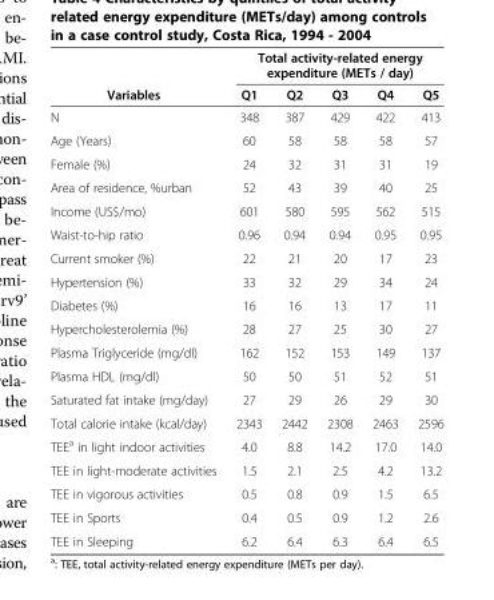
<table><thead><tr><td rowspan="2">Variables</td><td colspan="5">Total activity-related energy expenditure (METs / day)</td></tr><tr><td>Q1</td><td>Q2</td><td>Q3</td><td>Q4</td><td>Q5</td></tr></thead><tbody><tr><td>N</td><td>348</td><td>387</td><td>429</td><td>422</td><td>413</td></tr><tr><td>Age (Years)</td><td>60</td><td>58</td><td>58</td><td>58</td><td>57</td></tr><tr><td>Female (%)</td><td>24</td><td>32</td><td>31</td><td>31</td><td>19</td></tr><tr><td>Area of residence, %urban</td><td>52</td><td>43</td><td>39</td><td>40</td><td>25</td></tr><tr><td>Income (US$/mo)</td><td>601</td><td>580</td><td>595</td><td>562</td><td>515</td></tr><tr><td>Waist-to-hip ratio</td><td>0.96</td><td>0.94</td><td>0.94</td><td>0.95</td><td>0.95</td></tr><tr><td>Current smoker (%)</td><td>22</td><td>21</td><td>20</td><td>17</td><td>23</td></tr><tr><td>Hypertension (%)</td><td>33</td><td>32</td><td>29</td><td>34</td><td>24</td></tr><tr><td>Diabetes (%)</td><td>16</td><td>16</td><td>13</td><td>17</td><td>11</td></tr><tr><td>Hypercholesterolemia (%)</td><td>28</td><td>27</td><td>25</td><td>30</td><td>27</td></tr><tr><td>Plasma Triglyceride (mg/dl)</td><td>162</td><td>152</td><td>153</td><td>149</td><td>137</td></tr><tr><td>Plasma HDL (mg/dl)</td><td>50</td><td>50</td><td>51</td><td>52</td><td>51</td></tr><tr><td>Saturated fat intake (mg/day)</td><td>27</td><td>29</td><td>26</td><td>29</td><td>30</td></tr><tr><td>Total calorie intake (kcal/day)</td><td>2343</td><td>2442</td><td>2308</td><td>2463</td><td>2596</td></tr><tr><td>TEE<sup>a</sup> in light indoor activities</td><td>4.0</td><td>8.8</td><td>14.2</td><td>17.0</td><td>14.0</td></tr><tr><td>TEE in light-moderate activities</td><td>1.5</td><td>2.1</td><td>2.5</td><td>4.2</td><td>13.2</td></tr><tr><td>TEE in vigorous activities</td><td>0.5</td><td>0.8</td><td>0.9</td><td>1.5</td><td>6.5</td></tr><tr><td>TEE in Sports</td><td>0.4</td><td>0.5</td><td>0.9</td><td>1.2</td><td>2.6</td></tr><tr><td>TEE in Sleeping</td><td>6.2</td><td>6.4</td><td>6.3</td><td>6.4</td><td>6.5</td></tr></tbody></table>